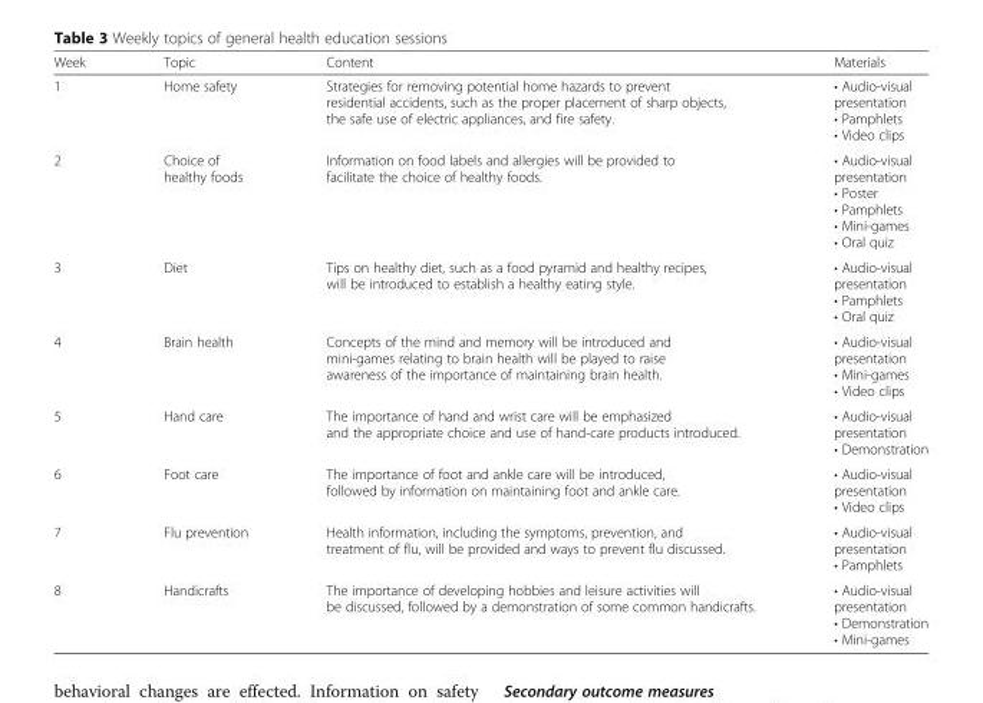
<table><thead><tr><td>Week</td><td>Topic</td><td>Content</td><td>Materials</td></tr></thead><tbody><tr><td>1</td><td>Home safety</td><td>Strategies for removing potential home hazards to prevent residential accidents, such as the proper placement of sharp objects, the safe use of electric appliances, and fire safety.</td><td>• Audio-visual presentation • Pamphlets • Video clips</td></tr><tr><td>2</td><td>Choice of healthy foods</td><td>Information on food labels and allergies will be provided to facilitate the choice of healthy foods.</td><td>• Audio-visual presentation • Poster • Pamphlets • Mini-games • Oral quiz</td></tr><tr><td>3</td><td>Diet</td><td>Tips on healthy diet, such as a food pyramid and healthy recipes, will be introduced to establish a healthy eating style.</td><td>• Audio-visual presentation • Pamphlets • Oral quiz</td></tr><tr><td>4</td><td>Brain health</td><td>Concepts of the mind and memory will be introduced and mini-games relating to brain health will be played to raise awareness of the importance of maintaining brain health.</td><td>• Audio-visual presentation • Mini-games • Video clips</td></tr><tr><td>5</td><td>Hand care</td><td>The importance of hand and wrist care will be emphasized and the appropriate choice and use of hand-care products introduced.</td><td>• Audio-visual presentation • Demonstration</td></tr><tr><td>6</td><td>Foot care</td><td>The importance of foot and ankle care will be introduced, followed by information on maintaining foot and ankle care.</td><td>• Audio-visual presentation • Video clips</td></tr><tr><td>7</td><td>Flu prevention</td><td>Health information, including the symptoms, prevention, and treatment of flu, will be provided and ways to prevent flu discussed.</td><td>• Audio-visual presentation • Pamphlets</td></tr><tr><td>8</td><td>Handicrafts</td><td>The importance of developing hobbies and leisure activities will be discussed, followed by a demonstration of some common handicrafts.</td><td>• Audio-visual presentation • Demonstration • Mini-games</td></tr></tbody></table>